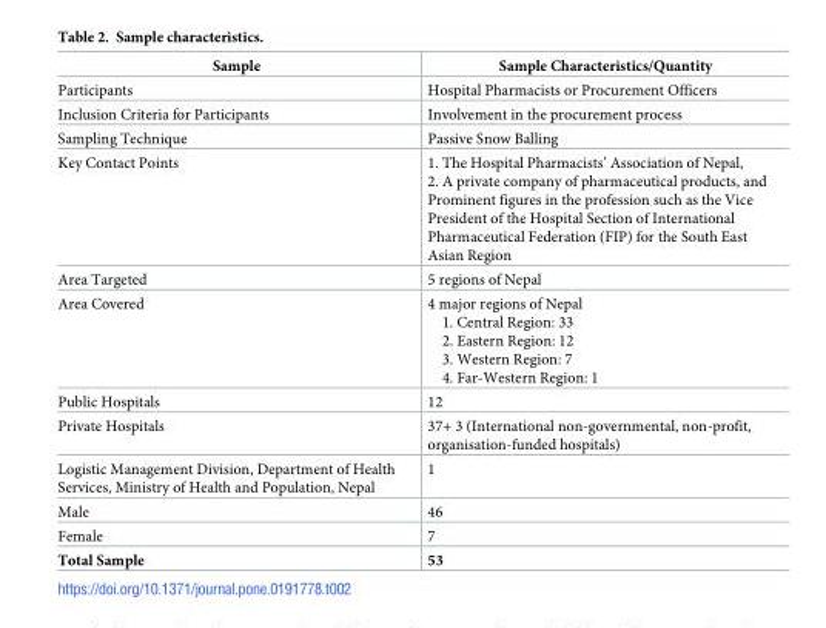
<table><thead><tr><td>Sample</td><td>Sample Characteristics/Quantity</td></tr></thead><tbody><tr><td>Participants</td><td>Hospital Pharmacists or Procurement Officers</td></tr><tr><td>Inclusion Criteria for Participants</td><td>Involvement in the procurement process</td></tr><tr><td>Sampling Technique</td><td>Passive Snow Balling</td></tr><tr><td>Key Contact Points</td><td>1. The Hospital Pharmacists’ Association of Nepal, 2. A private company of pharmaceutical products, and Prominent figures in the profession such as the Vice President of the Hospital Section of International Pharmaceutical Federation (FIP) for the South East Asian Region</td></tr><tr><td>Area Targeted</td><td>5 regions of Nepal</td></tr><tr><td>Area Covered</td><td>4 major regions of Nepal 1. Central Region: 33 2. Eastern Region: 12 3. Western Region: 7 4. Far-Western Region: 1</td></tr><tr><td>Public Hospitals</td><td>12</td></tr><tr><td>Private Hospitals</td><td>37+ 3 (International non-governmental, non-profit, organisation-funded hospitals)</td></tr><tr><td>Logistic Management Division, Department of Health Services, Ministry of Health and Population, Nepal</td><td>1</td></tr><tr><td>Male</td><td>46</td></tr><tr><td>Female</td><td>7</td></tr><tr><td>Total Sample</td><td>53</td></tr></tbody></table>